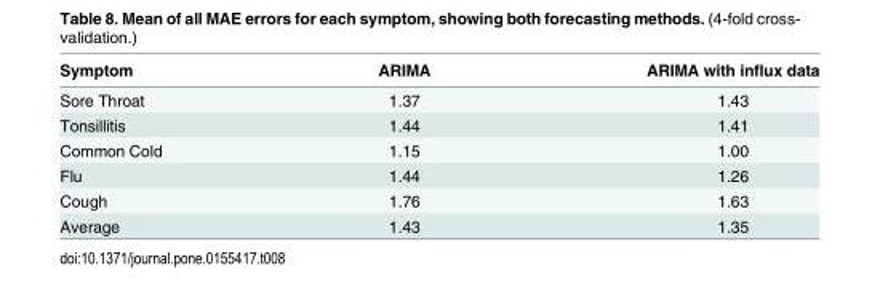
<table><thead><tr><td>Symptom</td><td>ARIMA</td><td>ARIMA with influx data</td></tr></thead><tbody><tr><td>Sore Throat</td><td>1.37</td><td>1.43</td></tr><tr><td>Tonsillitis</td><td>1.44</td><td>1.41</td></tr><tr><td>Common Cold</td><td>1.15</td><td>1.00</td></tr><tr><td>Flu</td><td>1.44</td><td>1.26</td></tr><tr><td>Cough</td><td>1.76</td><td>1.63</td></tr><tr><td>Average</td><td>1.43</td><td>1.35</td></tr></tbody></table>